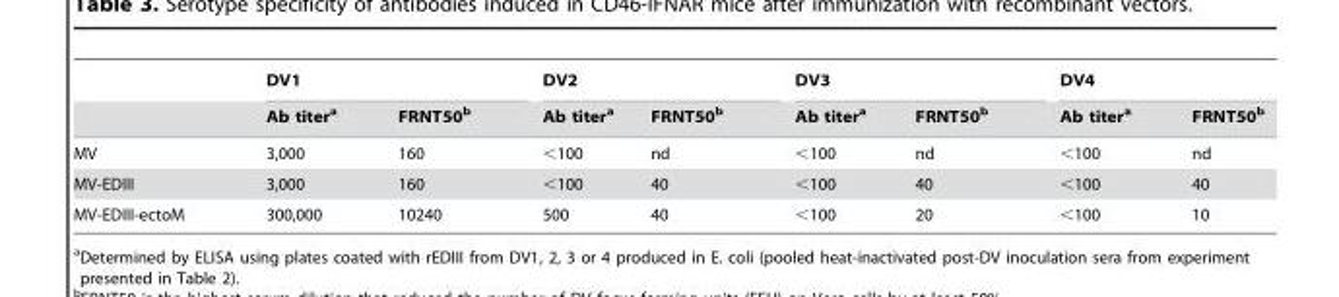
<table><thead><tr><td rowspan="2"></td><td colspan="2">DV1</td><td colspan="2">DV2</td><td colspan="2">DV3</td><td colspan="2">DV4</td></tr><tr><td>Ab titer<sup>a</sup></td><td>FRNT50<sup>b</sup></td><td>Ab titer<sup>a</sup></td><td>FRNT50<sup>b</sup></td><td>Ab titer<sup>a</sup></td><td>FRNT50<sup>b</sup></td><td>Ab titer<sup>a</sup></td><td>FRNT50<sup>b</sup></td></tr></thead><tbody><tr><td>MV</td><td>3,000</td><td>160</td><td>&lt;100</td><td>nd</td><td>&lt;100</td><td>nd</td><td>&lt;100</td><td>nd</td></tr><tr><td>MV-EDIII</td><td>3,000</td><td>160</td><td>&lt;100</td><td>40</td><td>&lt;100</td><td>40</td><td>&lt;100</td><td>40</td></tr><tr><td>MV-EDIII-ectoM</td><td>300,000</td><td>10240</td><td>500</td><td>40</td><td>&lt;100</td><td>20</td><td>&lt;100</td><td>10</td></tr></tbody></table>